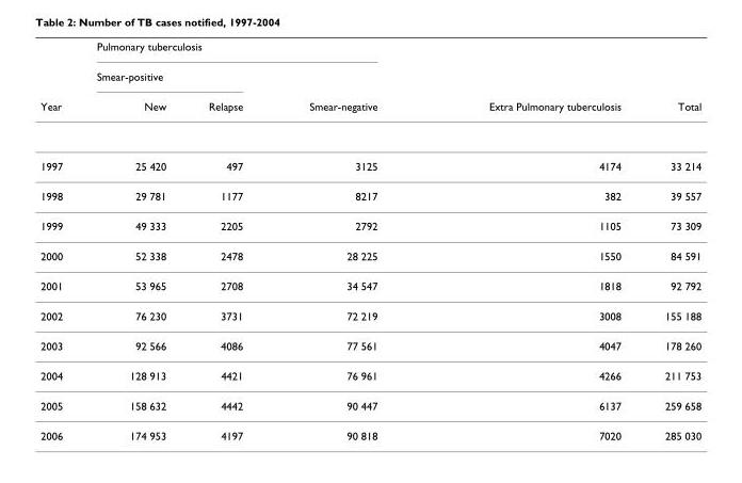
<table><thead><tr><td rowspan="3">Year</td><td colspan="3">Pulmonary tuberculosis</td><td rowspan="3">Extra Pulmonary tuberculosis</td><td rowspan="3">Total</td></tr><tr><td colspan="2">Smear-positive</td><td rowspan="2">Smear-negative</td></tr><tr><td>New</td><td>Relapse</td></tr></thead><tbody><tr><td>1997</td><td>25 420</td><td>497</td><td>3125</td><td>4174</td><td>33 214</td></tr><tr><td>1998</td><td>29 781</td><td>1177</td><td>8217</td><td>382</td><td>39 557</td></tr><tr><td>1999</td><td>49 333</td><td>2205</td><td>2792</td><td>1105</td><td>73 309</td></tr><tr><td>2000</td><td>52 338</td><td>2478</td><td>28 225</td><td>1550</td><td>84 591</td></tr><tr><td>2001</td><td>53 965</td><td>2708</td><td>34 547</td><td>1818</td><td>92 792</td></tr><tr><td>2002</td><td>76 230</td><td>3731</td><td>72 219</td><td>3008</td><td>155 188</td></tr><tr><td>2003</td><td>92 566</td><td>4086</td><td>77 561</td><td>4047</td><td>178 260</td></tr><tr><td>2004</td><td>128 913</td><td>4421</td><td>76 961</td><td>4266</td><td>211 753</td></tr><tr><td>2005</td><td>158 632</td><td>4442</td><td>90 447</td><td>6137</td><td>259 658</td></tr><tr><td>2006</td><td>174 953</td><td>4197</td><td>90 818</td><td>7020</td><td>285 030</td></tr></tbody></table>